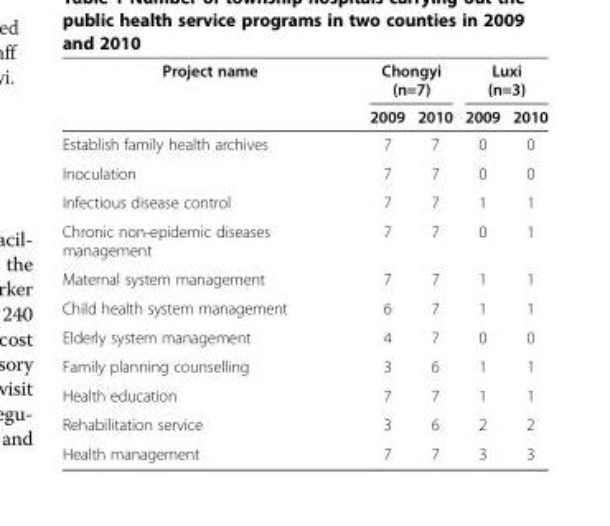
<table><thead><tr><td rowspan="2">Project name</td><td colspan="2">Chongyi (n=7)</td><td colspan="2">Luxi (n=3)</td></tr><tr><td>2009</td><td>2010</td><td>2009</td><td>2010</td></tr></thead><tbody><tr><td>Establish family health archives</td><td>7</td><td>7</td><td>0</td><td>0</td></tr><tr><td>Inoculation</td><td>7</td><td>7</td><td>0</td><td>0</td></tr><tr><td>Infectious disease control</td><td>7</td><td>7</td><td>1</td><td>1</td></tr><tr><td>Chronic non-epidemic diseases management</td><td>7</td><td>7</td><td>0</td><td>1</td></tr><tr><td>Maternal system management</td><td>7</td><td>7</td><td>1</td><td>1</td></tr><tr><td>Child health system management</td><td>6</td><td>7</td><td>1</td><td>1</td></tr><tr><td>Elderly system management</td><td>4</td><td>7</td><td>0</td><td>0</td></tr><tr><td>Family planning counselling</td><td>3</td><td>6</td><td>1</td><td>1</td></tr><tr><td>Health education</td><td>7</td><td>7</td><td>1</td><td>1</td></tr><tr><td>Rehabilitation service</td><td>3</td><td>6</td><td>2</td><td>2</td></tr><tr><td>Health management</td><td>7</td><td>7</td><td>3</td><td>3</td></tr></tbody></table>